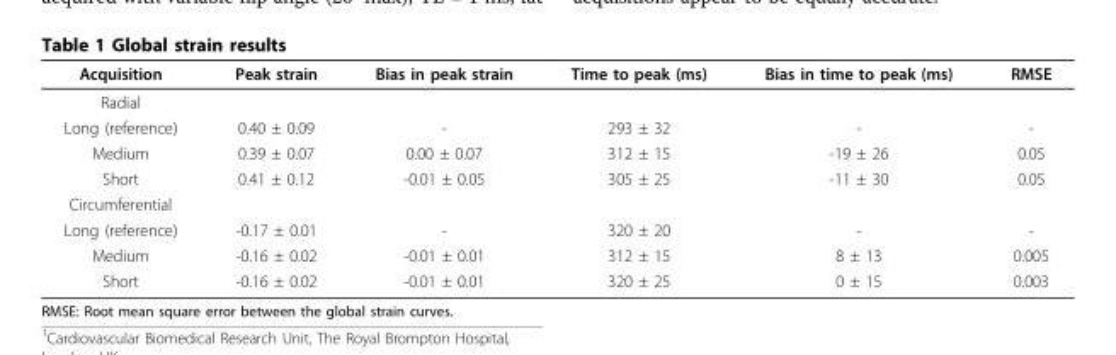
<table><thead><tr><td>Acquisition</td><td>Peak strain</td><td>Bias in peak strain</td><td>Time to peak (ms)</td><td>Bias in time to peak (ms)</td><td>RMSE</td></tr></thead><tbody><tr><td colspan="6">Radial</td></tr><tr><td>Long (reference)</td><td>0.40 ± 0.09</td><td>-</td><td>293 ± 32</td><td>-</td><td>-</td></tr><tr><td>Medium</td><td>0.39 ± 0.07</td><td>0.00 ± 0.07</td><td>312 ± 15</td><td>-19 ± 26</td><td>0.05</td></tr><tr><td>Short</td><td>0.41 ± 0.12</td><td>-0.01 ± 0.05</td><td>305 ± 25</td><td>-11 ± 30</td><td>0.05</td></tr><tr><td colspan="6">Circumferential</td></tr><tr><td>Long (reference)</td><td>-0.17 ± 0.01</td><td>-</td><td>320 ± 20</td><td>-</td><td>-</td></tr><tr><td>Medium</td><td>-0.16 ± 0.02</td><td>-0.01 ± 0.01</td><td>312 ± 15</td><td>8 ± 13</td><td>0.005</td></tr><tr><td>Short</td><td>-0.16 ± 0.02</td><td>-0.01 ± 0.01</td><td>320 ± 25</td><td>0 ± 15</td><td>0.003</td></tr></tbody></table>